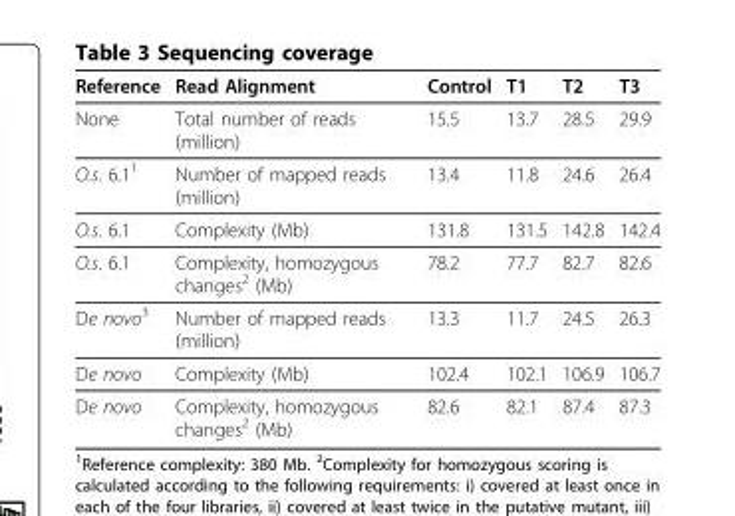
<table><thead><tr><td>Reference</td><td>Read Alignment</td><td>Control</td><td>T1</td><td>T2</td><td>T3</td></tr></thead><tbody><tr><td>None</td><td>Total number of reads (million)</td><td>15.5</td><td>13.7</td><td>28.5</td><td>29.9</td></tr><tr><td>O.s. 6.1<sup>1</sup></td><td>Number of mapped reads (million)</td><td>13.4</td><td>11.8</td><td>24.6</td><td>26.4</td></tr><tr><td>O.s. 6.1</td><td>Complexity (Mb)</td><td>131.8</td><td>131.5</td><td>142.8</td><td>142.4</td></tr><tr><td>O.s. 6.1</td><td>Complexity, homozygous changes<sup>2</sup> (Mb)</td><td>78.2</td><td>77.7</td><td>82.7</td><td>82.6</td></tr><tr><td>De novo<sup>3</sup></td><td>Number of mapped reads (million)</td><td>13.3</td><td>11.7</td><td>24.5</td><td>26.3</td></tr><tr><td>De novo</td><td>Complexity (Mb)</td><td>102.4</td><td>102.1</td><td>106.9</td><td>106.7</td></tr><tr><td>De novo</td><td>Complexity, homozygous changes<sup>2</sup> (Mb)</td><td>82.6</td><td>82.1</td><td>87.4</td><td>87.3</td></tr></tbody></table>